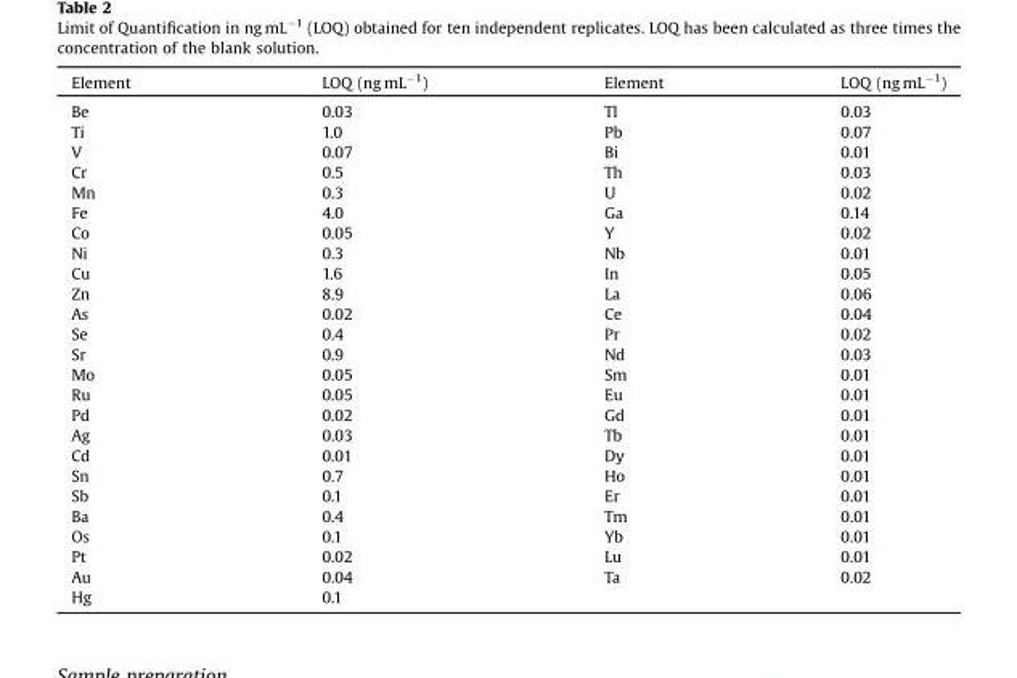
<table><thead><tr><td>Element</td><td>LOQ (ng mL<sup>−1</sup>)</td><td>Element</td><td>LOQ (ng mL<sup>−1</sup>)</td></tr></thead><tbody><tr><td>Be</td><td>0.03</td><td>Tl</td><td>0.03</td></tr><tr><td>Ti</td><td>1.0</td><td>Pb</td><td>0.07</td></tr><tr><td>V</td><td>0.07</td><td>Bi</td><td>0.01</td></tr><tr><td>Cr</td><td>0.5</td><td>Th</td><td>0.03</td></tr><tr><td>Mn</td><td>0.3</td><td>U</td><td>0.02</td></tr><tr><td>Fe</td><td>4.0</td><td>Ga</td><td>0.14</td></tr><tr><td>Co</td><td>0.05</td><td>Y</td><td>0.02</td></tr><tr><td>Ni</td><td>0.3</td><td>Nb</td><td>0.01</td></tr><tr><td>Cu</td><td>1.6</td><td>In</td><td>0.05</td></tr><tr><td>Zn</td><td>8.9</td><td>La</td><td>0.06</td></tr><tr><td>As</td><td>0.02</td><td>Ce</td><td>0.04</td></tr><tr><td>Se</td><td>0.4</td><td>Pr</td><td>0.02</td></tr><tr><td>Sr</td><td>0.9</td><td>Nd</td><td>0.03</td></tr><tr><td>Mo</td><td>0.05</td><td>Sm</td><td>0.01</td></tr><tr><td>Ru</td><td>0.05</td><td>Eu</td><td>0.01</td></tr><tr><td>Pd</td><td>0.02</td><td>Gd</td><td>0.01</td></tr><tr><td>Ag</td><td>0.03</td><td>Tb</td><td>0.01</td></tr><tr><td>Cd</td><td>0.01</td><td>Dy</td><td>0.01</td></tr><tr><td>Sn</td><td>0.7</td><td>Ho</td><td>0.01</td></tr><tr><td>Sb</td><td>0.1</td><td>Er</td><td>0.01</td></tr><tr><td>Ba</td><td>0.4</td><td>Tm</td><td>0.01</td></tr><tr><td>Os</td><td>0.1</td><td>Yb</td><td>0.01</td></tr><tr><td>Pt</td><td>0.02</td><td>Lu</td><td>0.01</td></tr><tr><td>Au</td><td>0.04</td><td>Ta</td><td>0.02</td></tr><tr><td>Hg</td><td>0.1</td><td></td><td></td></tr></tbody></table>